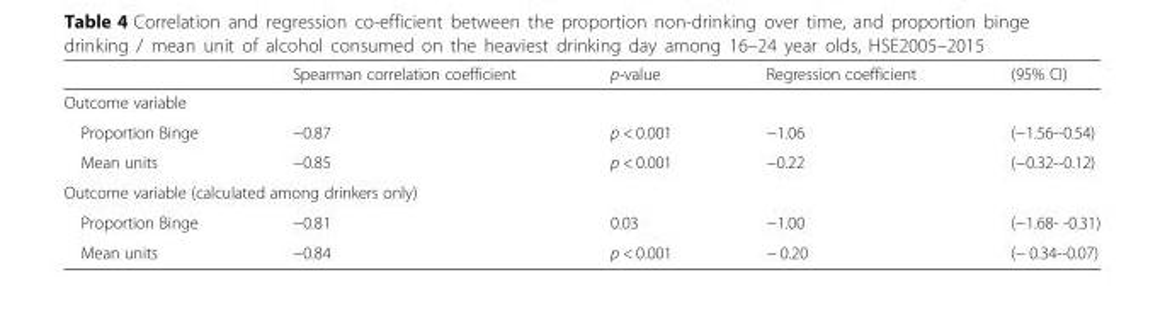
<table><thead><tr><td></td><td>Spearman correlation coefficient</td><td>p-value</td><td>Regression coefficient</td><td>(95% CI)</td></tr></thead><tbody><tr><td colspan="5">Outcome variable</td></tr><tr><td>Proportion Binge</td><td>−0.87</td><td>p &lt; 0.001</td><td>−1.06</td><td>(−1.56--0.54)</td></tr><tr><td>Mean units</td><td>−0.85</td><td>p &lt; 0.001</td><td>−0.22</td><td>(−0.32--0.12)</td></tr><tr><td colspan="5">Outcome variable (calculated among drinkers only)</td></tr><tr><td>Proportion Binge</td><td>−0.81</td><td>0.03</td><td>−1.00</td><td>(−1.68- -0.31)</td></tr><tr><td>Mean units</td><td>−0.84</td><td>p &lt; 0.001</td><td>− 0.20</td><td>(− 0.34--0.07)</td></tr></tbody></table>